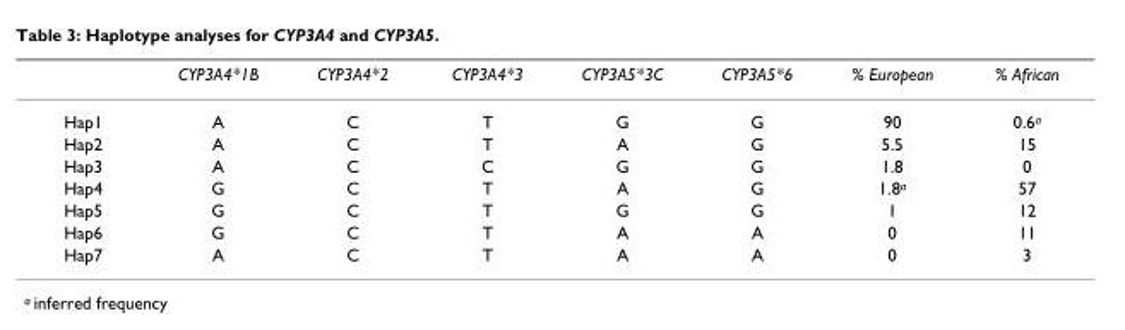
<table><thead><tr><td></td><td>CYP3A4*1B</td><td>CYP3A4*2</td><td>CYP3A4*3</td><td>CYP3A5*3C</td><td>CYP3A5*6</td><td>% European</td><td>% African</td></tr></thead><tbody><tr><td>Hap1</td><td>A</td><td>C</td><td>T</td><td>G</td><td>G</td><td>90</td><td>0.6a</td></tr><tr><td>Hap2</td><td>A</td><td>C</td><td>T</td><td>A</td><td>G</td><td>5.5</td><td>15</td></tr><tr><td>Hap3</td><td>A</td><td>C</td><td>C</td><td>G</td><td>G</td><td>1.8</td><td>0</td></tr><tr><td>Hap4</td><td>G</td><td>C</td><td>T</td><td>A</td><td>G</td><td>1.8a</td><td>57</td></tr><tr><td>Hap5</td><td>G</td><td>C</td><td>T</td><td>G</td><td>G</td><td>1</td><td>12</td></tr><tr><td>Hap6</td><td>G</td><td>C</td><td>T</td><td>A</td><td>A</td><td>0</td><td>11</td></tr><tr><td>Hap7</td><td>A</td><td>C</td><td>T</td><td>A</td><td>A</td><td>0</td><td>3</td></tr></tbody></table>